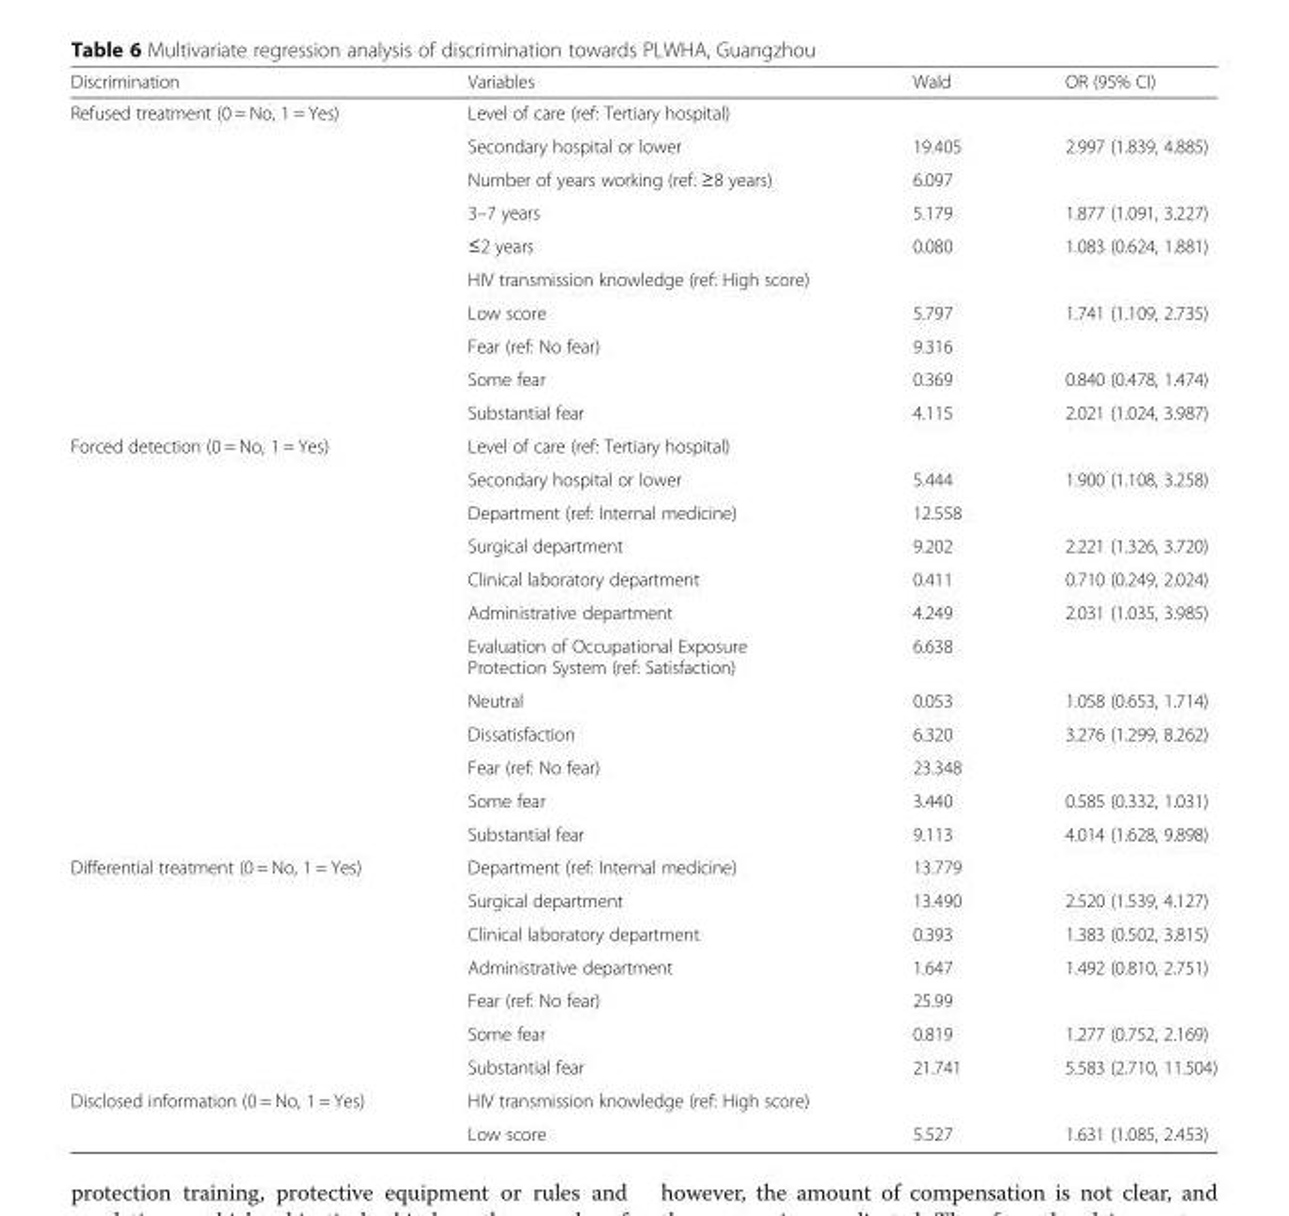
<table><thead><tr><td>Discrimination</td><td>Variables</td><td>Wald</td><td>OR (95% CI)</td></tr></thead><tbody><tr><td rowspan="10">Refused treatment (0 = No, 1 = Yes)</td><td>Level of care (ref: Tertiary hospital)</td><td></td><td></td></tr><tr><td>Secondary hospital or lower</td><td>19.405</td><td>2.997 (1.839, 4.885)</td></tr><tr><td>Number of years working (ref: ≥8 years)</td><td>6.097</td><td></td></tr><tr><td>3–7 years</td><td>5.179</td><td>1.877 (1.091, 3.227)</td></tr><tr><td>≤2 years</td><td>0.080</td><td>1.083 (0.624, 1.881)</td></tr><tr><td>HIV transmission knowledge (ref: High score)</td><td></td><td></td></tr><tr><td>Low score</td><td>5.797</td><td>1.741 (1.109, 2.735)</td></tr><tr><td>Fear (ref: No fear)</td><td>9.316</td><td></td></tr><tr><td>Some fear</td><td>0.369</td><td>0.840 (0.478, 1.474)</td></tr><tr><td>Substantial fear</td><td>4.115</td><td>2.021 (1.024, 3.987)</td></tr><tr><td rowspan="12">Forced detection (0 = No, 1 = Yes)</td><td>Level of care (ref: Tertiary hospital)</td><td></td><td></td></tr><tr><td>Secondary hospital or lower</td><td>5.444</td><td>1.900 (1.108, 3.258)</td></tr><tr><td>Department (ref: Internal medicine)</td><td>12.558</td><td></td></tr><tr><td>Surgical department</td><td>9.202</td><td>2.221 (1.326, 3.720)</td></tr><tr><td>Clinical laboratory department</td><td>0.411</td><td>0.710 (0.249, 2.024)</td></tr><tr><td>Administrative department</td><td>4.249</td><td>2.031 (1.035, 3.985)</td></tr><tr><td>Evaluation of Occupational Exposure Protection System (ref: Satisfaction)</td><td>6.638</td><td></td></tr><tr><td>Neutral</td><td>0.053</td><td>1.058 (0.653, 1.714)</td></tr><tr><td>Dissatisfaction</td><td>6.320</td><td>3.276 (1.299, 8.262)</td></tr><tr><td>Fear (ref: No fear)</td><td>23.348</td><td></td></tr><tr><td>Some fear</td><td>3.440</td><td>0.585 (0.332, 1.031)</td></tr><tr><td>Substantial fear</td><td>9.113</td><td>4.014 (1.628, 9.898)</td></tr><tr><td rowspan="7">Differential treatment (0 = No, 1 = Yes)</td><td>Department (ref: Internal medicine)</td><td>13.779</td><td></td></tr><tr><td>Surgical department</td><td>13.490</td><td>2.520 (1.539, 4.127)</td></tr><tr><td>Clinical laboratory department</td><td>0.393</td><td>1.383 (0.502, 3.815)</td></tr><tr><td>Administrative department</td><td>1.647</td><td>1.492 (0.810, 2.751)</td></tr><tr><td>Fear (ref: No fear)</td><td>25.99</td><td></td></tr><tr><td>Some fear</td><td>0.819</td><td>1.277 (0.752, 2.169)</td></tr><tr><td>Substantial fear</td><td>21.741</td><td>5.583 (2.710, 11.504)</td></tr><tr><td rowspan="2">Disclosed information (0 = No, 1 = Yes)</td><td>HIV transmission knowledge (ref: High score)</td><td></td><td></td></tr><tr><td>Low score</td><td>5.527</td><td>1.631 (1.085, 2.453)</td></tr></tbody></table>